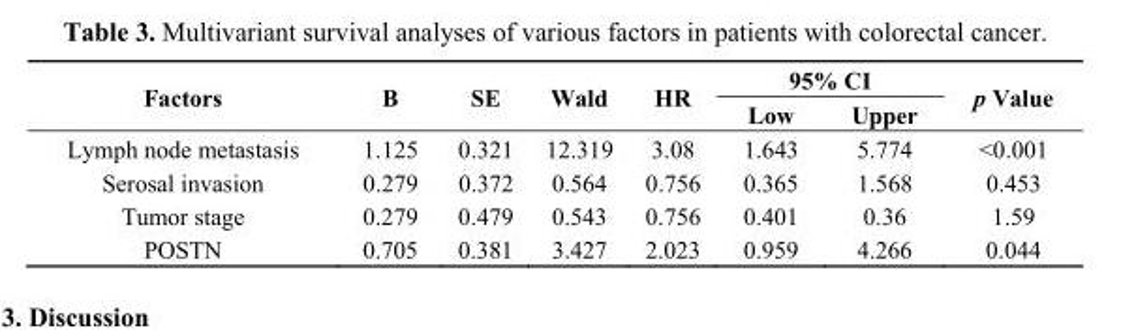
<table><thead><tr><td rowspan="2">Factors</td><td rowspan="2">B</td><td rowspan="2">SE</td><td rowspan="2">Wald</td><td rowspan="2">HR</td><td colspan="2">95% CI</td><td rowspan="2">p Value</td></tr><tr><td>Low</td><td>Upper</td></tr></thead><tbody><tr><td>Lymph node metastasis</td><td>1.125</td><td>0.321</td><td>12.319</td><td>3.08</td><td>1.643</td><td>5.774</td><td>&lt;0.001</td></tr><tr><td>Serosal invasion</td><td>0.279</td><td>0.372</td><td>0.564</td><td>0.756</td><td>0.365</td><td>1.568</td><td>0.453</td></tr><tr><td>Tumor stage</td><td>0.279</td><td>0.479</td><td>0.543</td><td>0.756</td><td>0.401</td><td>0.36</td><td>1.59</td></tr><tr><td>POSTN</td><td>0.705</td><td>0.381</td><td>3.427</td><td>2.023</td><td>0.959</td><td>4.266</td><td>0.044</td></tr></tbody></table>